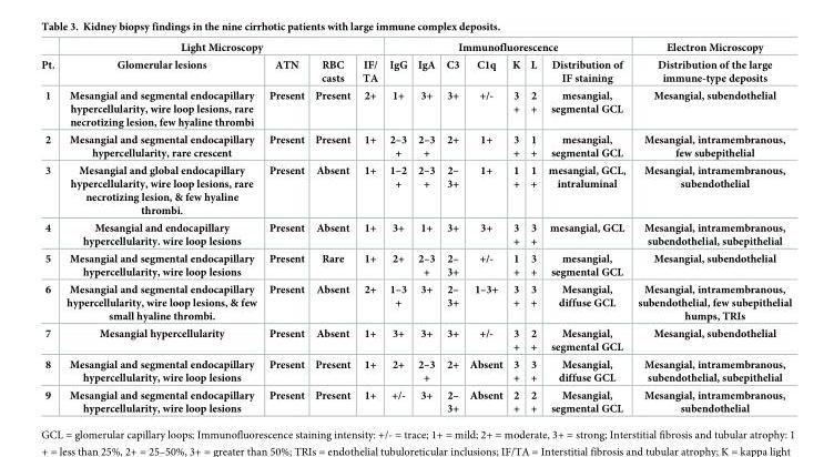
<table><thead><tr><td rowspan="2">Pt.</td><td colspan="4">Light Microscopy</td><td colspan="7">Immunofluorescence</td><td rowspan="2">Electron Microscopy Distribution of the large immune-type deposits</td></tr><tr><td>Glomerular lesions</td><td>ATN</td><td>RBC casts</td><td>IF/ TA</td><td>IgG</td><td>IgA</td><td>C3</td><td>C1q</td><td>K</td><td>L</td><td>Distribution of IF staining</td></tr></thead><tbody><tr><td>1</td><td>Mesangial and segmental endocapillary hypercellularity, wire loop lesions, rare necrotizing lesion, few hyaline thrombi</td><td>Present</td><td>Present</td><td>2+</td><td>1+</td><td>3+</td><td>3+</td><td>+/-</td><td>3 +</td><td>2 +</td><td>mesangial, segmental GCL</td><td>Mesangial, subendothelial</td></tr><tr><td>2</td><td>Mesangial and segmental endocapillary hypercellularity, rare crescent</td><td>Present</td><td>Present</td><td>1+</td><td>2–3 +</td><td>2–3 +</td><td>2+</td><td>1+</td><td>3 +</td><td>1 +</td><td>mesangial, segmental GCL</td><td>Mesangial, intramembranous, few subepithelial</td></tr><tr><td>3</td><td>Mesangial and global endocapillary hypercellularity, wire loop lesions, rare necrotizing lesion, &amp; few hyaline thrombi.</td><td>Present</td><td>Absent</td><td>1+</td><td>1–2 +</td><td>2–3 +</td><td>2– 3+</td><td>1+</td><td>1 +</td><td>1 +</td><td>mesangial, GCL, intraluminal</td><td>Mesangial, intramembranous, subendothelial</td></tr><tr><td>4</td><td>Mesangial and endocapillary hypercellularity. wire loop lesions</td><td>Present</td><td>Absent</td><td>1+</td><td>3+</td><td>1+</td><td>3+</td><td>3+</td><td>3 +</td><td>3 +</td><td>mesangial, GCL</td><td>Mesangial, intramembranous, subendothelial, subepithelial</td></tr><tr><td>5</td><td>Mesangial and segmental endocapillary hypercellularity, wire loop lesions</td><td>Present</td><td>Rare</td><td>1+</td><td>2+</td><td>2–3 +</td><td>2– 3+</td><td>+/-</td><td>1 +</td><td>3 +</td><td>mesangial, segmental GCL</td><td>Mesangial, subendothelial</td></tr><tr><td>6</td><td>Mesangial and segmental endocapillary hypercellularity, wire loop lesions, &amp; few small hyaline thrombi.</td><td>Present</td><td>Absent</td><td>2+</td><td>1–3 +</td><td>3+</td><td>2– 3+</td><td>1–3+</td><td>3 +</td><td>3 +</td><td>Mesangial, diffuse GCL</td><td>Mesangial, intramembranous, subendothelial, few subepithelial humps, TRIs</td></tr><tr><td>7</td><td>Mesangial hypercellularity</td><td>Present</td><td>Absent</td><td>1+</td><td>3+</td><td>3+</td><td>3+</td><td>+/-</td><td>3 +</td><td>2 +</td><td>Mesangial, segmental GCL</td><td>Mesangial, subendothelial</td></tr><tr><td>8</td><td>Mesangial and segmental endocapillary hypercellularity, wire loop lesions</td><td>Present</td><td>Present</td><td>1+</td><td>2+</td><td>2–3 +</td><td>2+</td><td>Absent</td><td>3 +</td><td>3 +</td><td>Mesangial, diffuse GCL</td><td>Mesangial, intramembranous, subendothelial, subepithelial</td></tr><tr><td>9</td><td>Mesangial and segmental endocapillary hypercellularity, wire loop lesions</td><td>Present</td><td>Present</td><td>1+</td><td>+/-</td><td>3+</td><td>2– 3+</td><td>Absent</td><td>2 +</td><td>2 +</td><td>Mesangial, segmental GCL</td><td>Mesangial, intramembranous, subendothelial</td></tr></tbody></table>